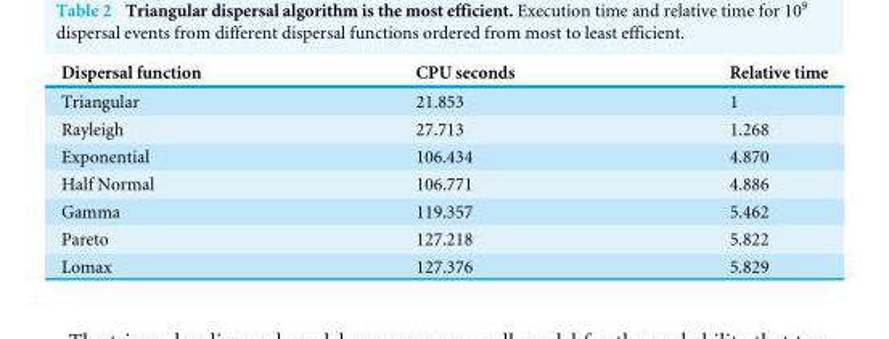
<table><thead><tr><td>Dispersal function</td><td>CPU seconds</td><td>Relative time</td></tr></thead><tbody><tr><td>Triangular</td><td>21.853</td><td>1</td></tr><tr><td>Rayleigh</td><td>27.713</td><td>1.268</td></tr><tr><td>Exponential</td><td>106.434</td><td>4.870</td></tr><tr><td>Half Normal</td><td>106.771</td><td>4.886</td></tr><tr><td>Gamma</td><td>119.357</td><td>5.462</td></tr><tr><td>Pareto</td><td>127.218</td><td>5.822</td></tr><tr><td>Lomax</td><td>127.376</td><td>5.829</td></tr></tbody></table>